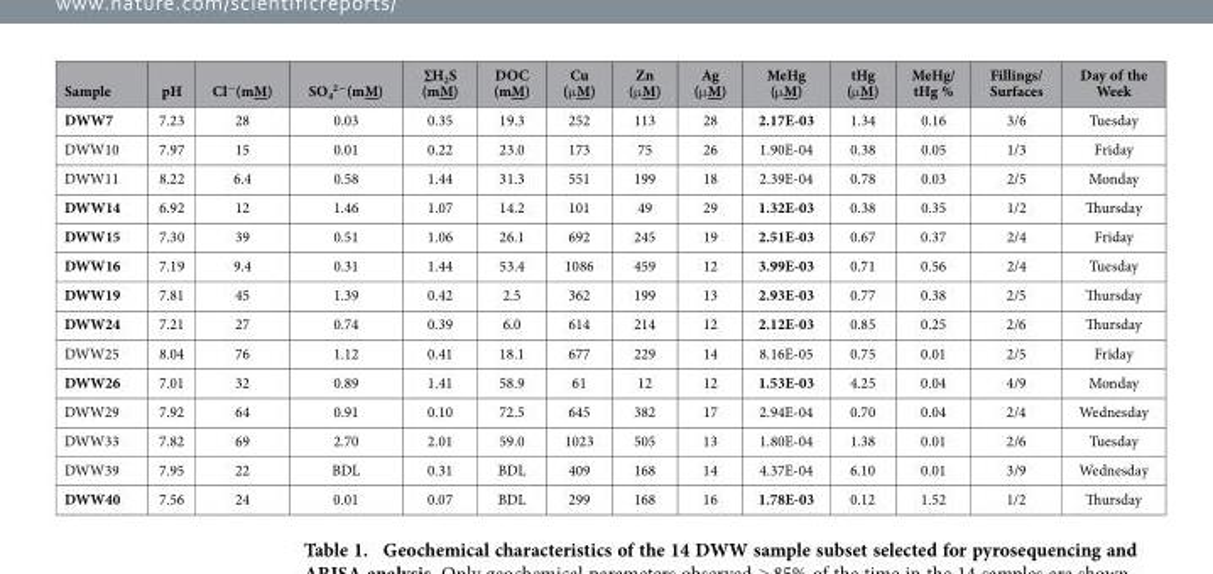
<table><thead><tr><td>Sample</td><td>pH</td><td>Cl<sup>−</sup>(mM)</td><td>SO<sub>4</sub> <sup>2−</sup>(mM)</td><td>∑H<sub>2</sub>S (mM)</td><td>DOC (mM)</td><td>Cu (μ M)</td><td>Zn (μ M)</td><td>Ag (μ M)</td><td>MeHg (μ M)</td><td>tHg (μ M)</td><td>MeHg/ tHg %</td><td>Fillings/ Surfaces</td><td>Day of the Week</td></tr></thead><tbody><tr><td>DWW7</td><td>7.23</td><td>28</td><td>0.03</td><td>0.35</td><td>19.3</td><td>252</td><td>113</td><td>28</td><td>2.17E-03</td><td>1.34</td><td>0.16</td><td>3/6</td><td>Tuesday</td></tr><tr><td>DWW10</td><td>7.97</td><td>15</td><td>0.01</td><td>0.22</td><td>23.0</td><td>173</td><td>75</td><td>26</td><td>1.90E-04</td><td>0.38</td><td>0.05</td><td>1/3</td><td>Friday</td></tr><tr><td>DWW11</td><td>8.22</td><td>6.4</td><td>0.58</td><td>1.44</td><td>31.3</td><td>551</td><td>199</td><td>18</td><td>2.39E-04</td><td>0.78</td><td>0.03</td><td>2/5</td><td>Monday</td></tr><tr><td>DWW14</td><td>6.92</td><td>12</td><td>1.46</td><td>1.07</td><td>14.2</td><td>101</td><td>49</td><td>29</td><td>1.32E-03</td><td>0.38</td><td>0.35</td><td>1/2</td><td>Thursday</td></tr><tr><td>DWW15</td><td>7.30</td><td>39</td><td>0.51</td><td>1.06</td><td>26.1</td><td>692</td><td>245</td><td>19</td><td>2.51E-03</td><td>0.67</td><td>0.37</td><td>2/4</td><td>Friday</td></tr><tr><td>DWW16</td><td>7.19</td><td>9.4</td><td>0.31</td><td>1.44</td><td>53.4</td><td>1086</td><td>459</td><td>12</td><td>3.99E-03</td><td>0.71</td><td>0.56</td><td>2/4</td><td>Tuesday</td></tr><tr><td>DWW19</td><td>7.81</td><td>45</td><td>1.39</td><td>0.42</td><td>2.5</td><td>362</td><td>199</td><td>13</td><td>2.93E-03</td><td>0.77</td><td>0.38</td><td>2/5</td><td>Thursday</td></tr><tr><td>DWW24</td><td>7.21</td><td>27</td><td>0.74</td><td>0.39</td><td>6.0</td><td>614</td><td>214</td><td>12</td><td>2.12E-03</td><td>0.85</td><td>0.25</td><td>2/6</td><td>Thursday</td></tr><tr><td>DWW25</td><td>8.04</td><td>76</td><td>1.12</td><td>0.41</td><td>18.1</td><td>677</td><td>229</td><td>14</td><td>8.16E-05</td><td>0.75</td><td>0.01</td><td>2/5</td><td>Friday</td></tr><tr><td>DWW26</td><td>7.01</td><td>32</td><td>0.89</td><td>1.41</td><td>58.9</td><td>61</td><td>12</td><td>12</td><td>1.53E-03</td><td>4.25</td><td>0.04</td><td>4/9</td><td>Monday</td></tr><tr><td>DWW29</td><td>7.92</td><td>64</td><td>0.91</td><td>0.10</td><td>72.5</td><td>645</td><td>382</td><td>17</td><td>2.94E-04</td><td>0.70</td><td>0.04</td><td>2/4</td><td>Wednesday</td></tr><tr><td>DWW33</td><td>7.82</td><td>69</td><td>2.70</td><td>2.01</td><td>59.0</td><td>1023</td><td>505</td><td>13</td><td>1.80E-04</td><td>1.38</td><td>0.01</td><td>2/6</td><td>Tuesday</td></tr><tr><td>DWW39</td><td>7.95</td><td>22</td><td>BDL</td><td>0.31</td><td>BDL</td><td>409</td><td>168</td><td>14</td><td>4.37E-04</td><td>6.10</td><td>0.01</td><td>3/9</td><td>Wednesday</td></tr><tr><td>DWW40</td><td>7.56</td><td>24</td><td>0.01</td><td>0.07</td><td>BDL</td><td>299</td><td>168</td><td>16</td><td>1.78E-03</td><td>0.12</td><td>1.52</td><td>1/2</td><td>Thursday</td></tr></tbody></table>